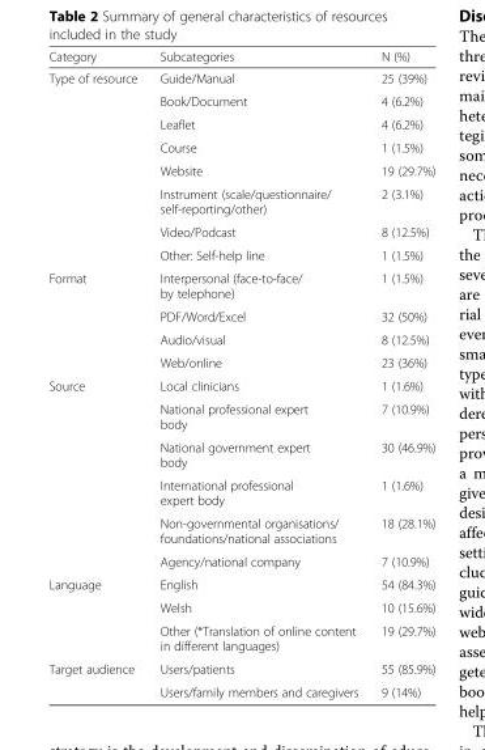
<table><thead><tr><td>Category</td><td>Subcategories</td><td>N (%)</td></tr></thead><tbody><tr><td rowspan="8">Type of resource</td><td>Guide/Manual</td><td>25 (39%)</td></tr><tr><td>Book/Document</td><td>4 (6.2%)</td></tr><tr><td>Leaflet</td><td>4 (6.2%)</td></tr><tr><td>Course</td><td>1 (1.5%)</td></tr><tr><td>Website</td><td>19 (29.7%)</td></tr><tr><td>Instrument (scale/questionnaire/ self-reporting/other)</td><td>2 (3.1%)</td></tr><tr><td>Video/Podcast</td><td>8 (12.5%)</td></tr><tr><td>Other: Self-help line</td><td>1 (1.5%)</td></tr><tr><td rowspan="4">Format</td><td>Interpersonal (face-to-face/ by telephone)</td><td>1 (1.5%)</td></tr><tr><td>PDF/Word/Excel</td><td>32 (50%)</td></tr><tr><td>Audio/visual</td><td>8 (12.5%)</td></tr><tr><td>Web/online</td><td>23 (36%)</td></tr><tr><td rowspan="6">Source</td><td>Local clinicians</td><td>1 (1.6%)</td></tr><tr><td>National professional expert body</td><td>7 (10.9%)</td></tr><tr><td>National government expert body</td><td>30 (46.9%)</td></tr><tr><td>International professional expert body</td><td>1 (1.6%)</td></tr><tr><td>Non-governmental organisations/ foundations/national associations</td><td>18 (28.1%)</td></tr><tr><td>Agency/national company</td><td>7 (10.9%)</td></tr><tr><td rowspan="3">Language</td><td>English</td><td>54 (84.3%)</td></tr><tr><td>Welsh</td><td>10 (15.6%)</td></tr><tr><td>Other (*Translation of online content in different languages)</td><td>19 (29.7%)</td></tr><tr><td rowspan="2">Target audience</td><td>Users/patients</td><td>55 (85.9%)</td></tr><tr><td>Users/family members and caregivers</td><td>9 (14%)</td></tr></tbody></table>